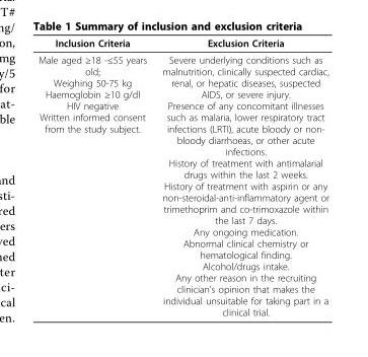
<table><thead><tr><td>Inclusion Criteria</td><td>Exclusion Criteria</td></tr></thead><tbody><tr><td>Male aged ≥18 -≤55 years old; Weighing 50-75 kg Haemoglobin ≥10 g/dl HIV negative Written informed consent from the study subject.</td><td>Severe underlying conditions such as malnutrition, clinically suspected cardiac, renal, or hepatic diseases, suspected AIDS, or severe injury. Presence of any concomitant illnesses such as malaria, lower respiratory tract infections (LRTI), acute bloody or non- bloody diarrhoeas, or other acute infections. History of treatment with antimalarial drugs within the last 2 weeks. History of treatment with aspirin or any non-steroidal-anti-inflammatory agent or trimethoprim and co-trimoxazole within the last 7 days. Any ongoing medication. Abnormal clinical chemistry or hematological finding. Alcohol/drugs intake. Any other reason in the recruiting clinician’s opinion that makes the individual unsuitable for taking part in a clinical trial.</td></tr></tbody></table>